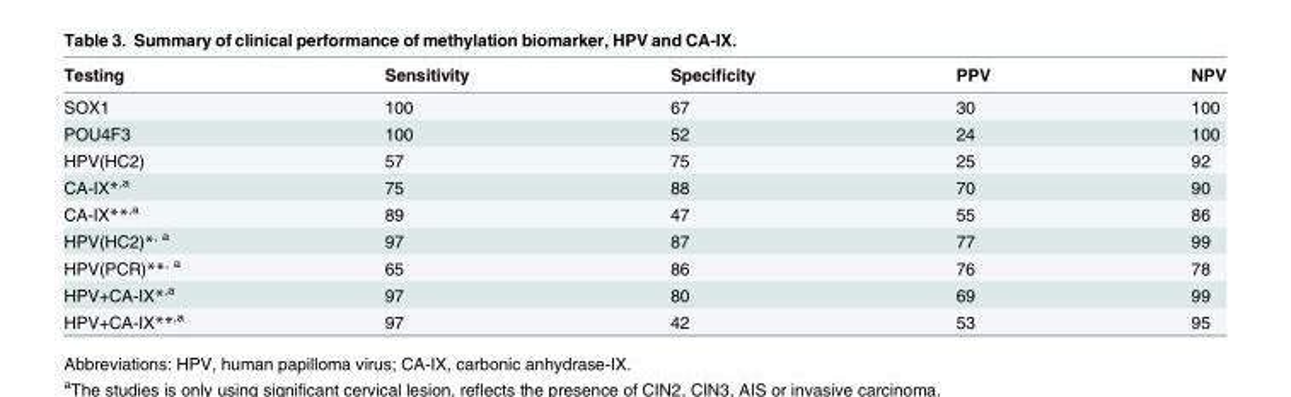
<table><thead><tr><td>Testing</td><td>Sensitivity</td><td>Specificity</td><td>PPV</td><td>NPV</td></tr></thead><tbody><tr><td>SOX1</td><td>100</td><td>67</td><td>30</td><td>100</td></tr><tr><td>POU4F3</td><td>100</td><td>52</td><td>24</td><td>100</td></tr><tr><td>HPV(HC2)</td><td>57</td><td>75</td><td>25</td><td>92</td></tr><tr><td>CA-IX*<sup>,a</sup></td><td>75</td><td>88</td><td>70</td><td>90</td></tr><tr><td>CA-IX**<sup>,a</sup></td><td>89</td><td>47</td><td>55</td><td>86</td></tr><tr><td>HPV(HC2)*<sup>, a</sup></td><td>97</td><td>87</td><td>77</td><td>99</td></tr><tr><td>HPV(PCR)**<sup>, a</sup></td><td>65</td><td>86</td><td>76</td><td>78</td></tr><tr><td>HPV+CA-IX*<sup>,a</sup></td><td>97</td><td>80</td><td>69</td><td>99</td></tr><tr><td>HPV+CA-IX**<sup>,a</sup></td><td>97</td><td>42</td><td>53</td><td>95</td></tr></tbody></table>